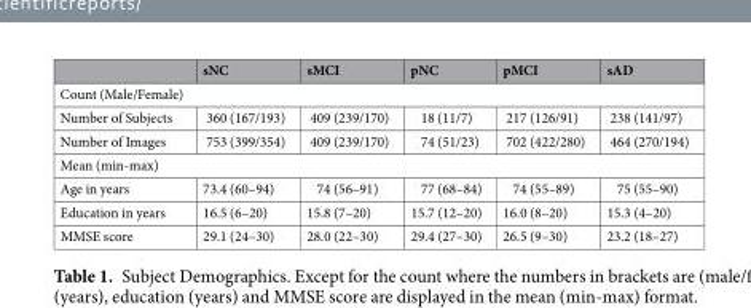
<table><thead><tr><td></td><td>sNC</td><td>sMCI</td><td>pNC</td><td>pMCI</td><td>sAD</td></tr></thead><tbody><tr><td colspan="6">Count (Male/Female)</td></tr><tr><td>Number of Subjects</td><td>360 (167/193)</td><td>409 (239/170)</td><td>18 (11/7)</td><td>217 (126/91)</td><td>238 (141/97)</td></tr><tr><td>Number of Images</td><td>753 (399/354)</td><td>409 (239/170)</td><td>74 (51/23)</td><td>702 (422/280)</td><td>464 (270/194)</td></tr><tr><td colspan="6">Mean (min-max)</td></tr><tr><td>Age in years</td><td>73.4 (60–94)</td><td>74 (56–91)</td><td>77 (68–84)</td><td>74 (55–89)</td><td>75 (55–90)</td></tr><tr><td>Education in years</td><td>16.5 (6–20)</td><td>15.8 (7–20)</td><td>15.7 (12–20)</td><td>16.0 (8–20)</td><td>15.3 (4–20)</td></tr><tr><td>MMSE score</td><td>29.1 (24–30)</td><td>28.0 (22–30)</td><td>29.4 (27–30)</td><td>26.5 (9–30)</td><td>23.2 (18–27)</td></tr></tbody></table>